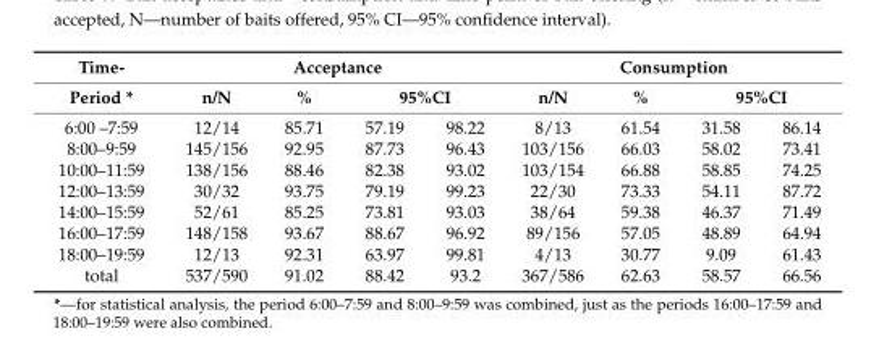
<table><thead><tr><td rowspan="3">Time- Period * 6:00 –7:59</td><td colspan="4">Acceptance</td><td colspan="4">Consumption</td></tr><tr><td rowspan="2">n/N 12/14</td><td rowspan="2">% 85.71</td><td colspan="2">95%CI</td><td rowspan="2">n/N 8/13</td><td rowspan="2">% 61.54</td><td colspan="2">95%CI</td></tr><tr><td>57.19</td><td>98.22</td><td>31.58</td><td>86.14</td></tr></thead><tbody><tr><td>8:00–9:59</td><td>145/156</td><td>92.95</td><td>87.73</td><td>96.43</td><td>103/156</td><td>66.03</td><td>58.02</td><td>73.41</td></tr><tr><td>10:00–11:59</td><td>138/156</td><td>88.46</td><td>82.38</td><td>93.02</td><td>103/154</td><td>66.88</td><td>58.85</td><td>74.25</td></tr><tr><td>12:00–13:59</td><td>30/32</td><td>93.75</td><td>79.19</td><td>99.23</td><td>22/30</td><td>73.33</td><td>54.11</td><td>87.72</td></tr><tr><td>14:00–15:59</td><td>52/61</td><td>85.25</td><td>73.81</td><td>93.03</td><td>38/64</td><td>59.38</td><td>46.37</td><td>71.49</td></tr><tr><td>16:00–17:59</td><td>148/158</td><td>93.67</td><td>88.67</td><td>96.92</td><td>89/156</td><td>57.05</td><td>48.89</td><td>64.94</td></tr><tr><td>18:00–19:59</td><td>12/13</td><td>92.31</td><td>63.97</td><td>99.81</td><td>4/13</td><td>30.77</td><td>9.09</td><td>61.43</td></tr><tr><td>total</td><td>537/590</td><td>91.02</td><td>88.42</td><td>93.2</td><td>367/586</td><td>62.63</td><td>58.57</td><td>66.56</td></tr></tbody></table>